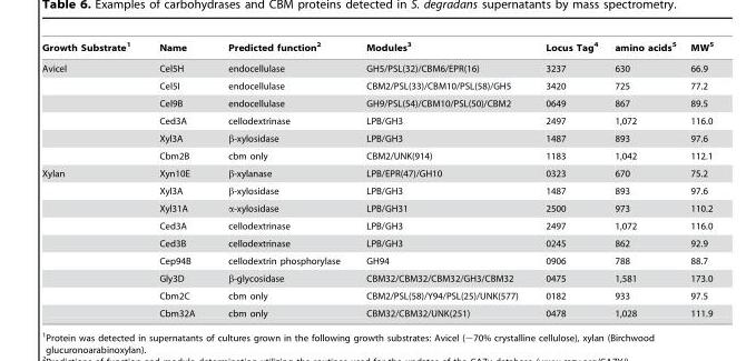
<table><thead><tr><td>Growth Substrate<sup>1</sup></td><td>Name</td><td>Predicted function<sup>2</sup></td><td>Modules<sup>3</sup></td><td>Locus Tag<sup>4</sup></td><td>amino acids<sup>5</sup></td><td>MW<sup>5</sup></td></tr></thead><tbody><tr><td rowspan="6">Avicel</td><td>Cel5H</td><td>endocellulase</td><td>GH5/PSL(32)/CBM6/EPR(16)</td><td>3237</td><td>630</td><td>66.9</td></tr><tr><td>Cel5I</td><td>endocellulase</td><td>CBM2/PSL(33)/CBM10/PSL(58)/GH5</td><td>3420</td><td>725</td><td>77.2</td></tr><tr><td>Cel9B</td><td>endocellulase</td><td>GH9/PSL(54)/CBM10/PSL(50)/CBM2</td><td>0649</td><td>867</td><td>89.5</td></tr><tr><td>Ced3A</td><td>cellodextrinase</td><td>LPB/GH3</td><td>2497</td><td>1,072</td><td>116.0</td></tr><tr><td>Xyl3A</td><td>β-xylosidase</td><td>LPB/GH3</td><td>1487</td><td>893</td><td>97.6</td></tr><tr><td>Cbm2B</td><td>cbm only</td><td>CBM2/UNK(914)</td><td>1183</td><td>1,042</td><td>112.1</td></tr><tr><td rowspan="9">Xylan</td><td>Xyn10E</td><td>β-xylanase</td><td>LPB/EPR(47)/GH10</td><td>0323</td><td>670</td><td>75.2</td></tr><tr><td>Xyl3A</td><td>β-xylosidase</td><td>LPB/GH3</td><td>1487</td><td>893</td><td>97.6</td></tr><tr><td>Xyl31A</td><td>α-xylosidase</td><td>LPB/GH31</td><td>2500</td><td>973</td><td>110.2</td></tr><tr><td>Ced3A</td><td>cellodextrinase</td><td>LPB/GH3</td><td>2497</td><td>1,072</td><td>116.0</td></tr><tr><td>Ced3B</td><td>cellodextrinase</td><td>LPB/GH3</td><td>0245</td><td>862</td><td>92.9</td></tr><tr><td>Cep94B</td><td>cellodextrin phosphorylase</td><td>GH94</td><td>0906</td><td>788</td><td>88.7</td></tr><tr><td>Gly3D</td><td>β-glycosidase</td><td>CBM32/CBM32/CBM32/GH3/CBM32</td><td>0475</td><td>1,581</td><td>173.0</td></tr><tr><td>Cbm2C</td><td>cbm only</td><td>CBM2/PSL(58)/Y94/PSL(25)/UNK(577)</td><td>0182</td><td>933</td><td>97.5</td></tr><tr><td>Cbm32A</td><td>cbm only</td><td>CBM32/CBM32/UNK(251)</td><td>0478</td><td>1,028</td><td>111.9</td></tr></tbody></table>